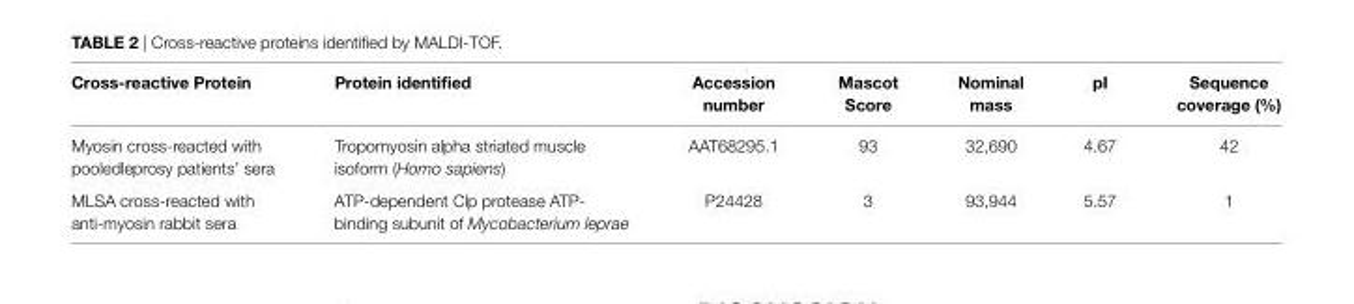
<table><thead><tr><td>cross-reactive Protein</td><td>Protein identified</td><td>accession number</td><td>Mascot score</td><td>nominal mass</td><td>pi</td><td>sequence coverage (%)</td></tr></thead><tbody><tr><td>Myosin cross-reacted with pooledleprosy patients’ sera</td><td>Tropomyosin alpha striated muscle isoform (Homo sapiens)</td><td>AAT68295.1</td><td>93</td><td>32,690</td><td>4.67</td><td>42</td></tr><tr><td>MLSA cross-reacted with anti-myosin rabbit sera</td><td>ATP-dependent Clp protease ATP- binding subunit of Mycobacterium leprae</td><td>P24428</td><td>3</td><td>93,944</td><td>5.57</td><td>1</td></tr></tbody></table>